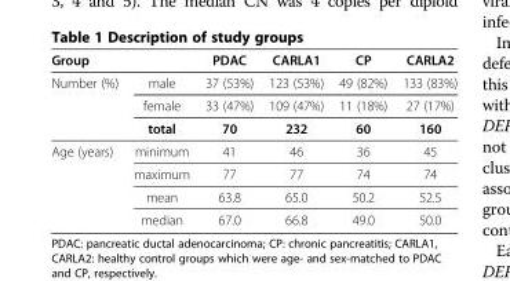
<table><thead><tr><td colspan="2">Group</td><td rowspan="2">PDAC 37 (53%)</td><td rowspan="2">CARLA1 123 (53%)</td><td rowspan="2">CP 49 (82%)</td><td rowspan="2">CARLA2 133 (83%)</td></tr><tr><td>Number (%)</td><td>male</td></tr></thead><tbody><tr><td></td><td>female</td><td>33 (47%)</td><td>109 (47%)</td><td>11 (18%)</td><td>27 (17%)</td></tr><tr><td></td><td>total</td><td>70</td><td>232</td><td>60</td><td>160</td></tr><tr><td rowspan="4">Age (years)</td><td>minimum</td><td>41</td><td>46</td><td>36</td><td>45</td></tr><tr><td>maximum</td><td>77</td><td>77</td><td>74</td><td>74</td></tr><tr><td>mean</td><td>63.8</td><td>65.0</td><td>50.2</td><td>52.5</td></tr><tr><td>median</td><td>67.0</td><td>66.8</td><td>49.0</td><td>50.0</td></tr></tbody></table>